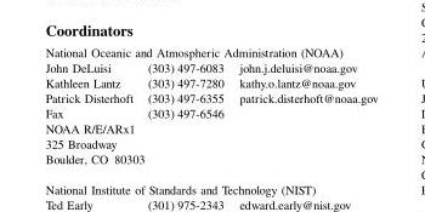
<table><tbody><tr><td colspan="3">National Oceanic and Atmospheric Administration (NOAA)</td></tr><tr><td>John DeLuisi</td><td>(303) 497-6083</td><td>john.j.deluisi@noaa.gov</td></tr><tr><td>Kathleen Lantz</td><td>(303) 497-7280</td><td>kathy.o.lantz@noaa.gov</td></tr><tr><td>Patrick Disterhoft</td><td>(303) 497-6355</td><td>patrick.disterhoft@noaa.gov</td></tr><tr><td>Fax</td><td>(303) 497-6546</td><td></td></tr><tr><td colspan="3">NOAA R/E/ARx1</td></tr><tr><td colspan="3">325 Broadway</td></tr><tr><td>Boulder, CO 80303</td><td></td><td></td></tr></tbody></table>